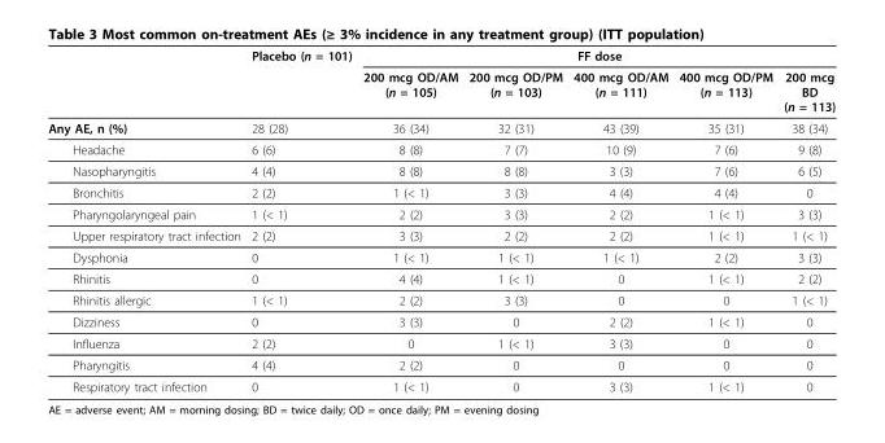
<table><thead><tr><td rowspan="2"></td><td rowspan="2">Placebo (n = 101)</td><td colspan="5">FF dose</td></tr><tr><td>200 mcg OD/AM (n = 105)</td><td>200 mcg OD/PM (n = 103)</td><td>400 mcg OD/AM (n = 111)</td><td>400 mcg OD/PM (n = 113)</td><td>200 mcg BD (n = 113)</td></tr></thead><tbody><tr><td>Any AE, n (%)</td><td>28 (28)</td><td>36 (34)</td><td>32 (31)</td><td>43 (39)</td><td>35 (31)</td><td>38 (34)</td></tr><tr><td>Headache</td><td>6 (6)</td><td>8 (8)</td><td>7 (7)</td><td>10 (9)</td><td>7 (6)</td><td>9 (8)</td></tr><tr><td>Nasopharyngitis</td><td>4 (4)</td><td>8 (8)</td><td>8 (8)</td><td>3 (3)</td><td>7 (6)</td><td>6 (5)</td></tr><tr><td>Bronchitis</td><td>2 (2)</td><td>1 (&lt; 1)</td><td>3 (3)</td><td>4 (4)</td><td>4 (4)</td><td>0</td></tr><tr><td>Pharyngolaryngeal pain</td><td>1 (&lt; 1)</td><td>2 (2)</td><td>3 (3)</td><td>2 (2)</td><td>1 (&lt; 1)</td><td>3 (3)</td></tr><tr><td>Upper respiratory tract infection</td><td>2 (2)</td><td>3 (3)</td><td>2 (2)</td><td>2 (2)</td><td>1 (&lt; 1)</td><td>1 (&lt; 1)</td></tr><tr><td>Dysphonia</td><td>0</td><td>1 (&lt; 1)</td><td>1 (&lt; 1)</td><td>1 (&lt; 1)</td><td>2 (2)</td><td>3 (3)</td></tr><tr><td>Rhinitis</td><td>0</td><td>4 (4)</td><td>1 (&lt; 1)</td><td>0</td><td>1 (&lt; 1)</td><td>2 (2)</td></tr><tr><td>Rhinitis allergic</td><td>1 (&lt; 1)</td><td>2 (2)</td><td>3 (3)</td><td>0</td><td>0</td><td>1 (&lt; 1)</td></tr><tr><td>Dizziness</td><td>0</td><td>3 (3)</td><td>0</td><td>2 (2)</td><td>1 (&lt; 1)</td><td>0</td></tr><tr><td>Influenza</td><td>2 (2)</td><td>0</td><td>1 (&lt; 1)</td><td>3 (3)</td><td>0</td><td>0</td></tr><tr><td>Pharyngitis</td><td>4 (4)</td><td>2 (2)</td><td>0</td><td>0</td><td>0</td><td>0</td></tr><tr><td>Respiratory tract infection</td><td>0</td><td>1 (&lt; 1)</td><td>0</td><td>3 (3)</td><td>1 (&lt; 1)</td><td>0</td></tr></tbody></table>